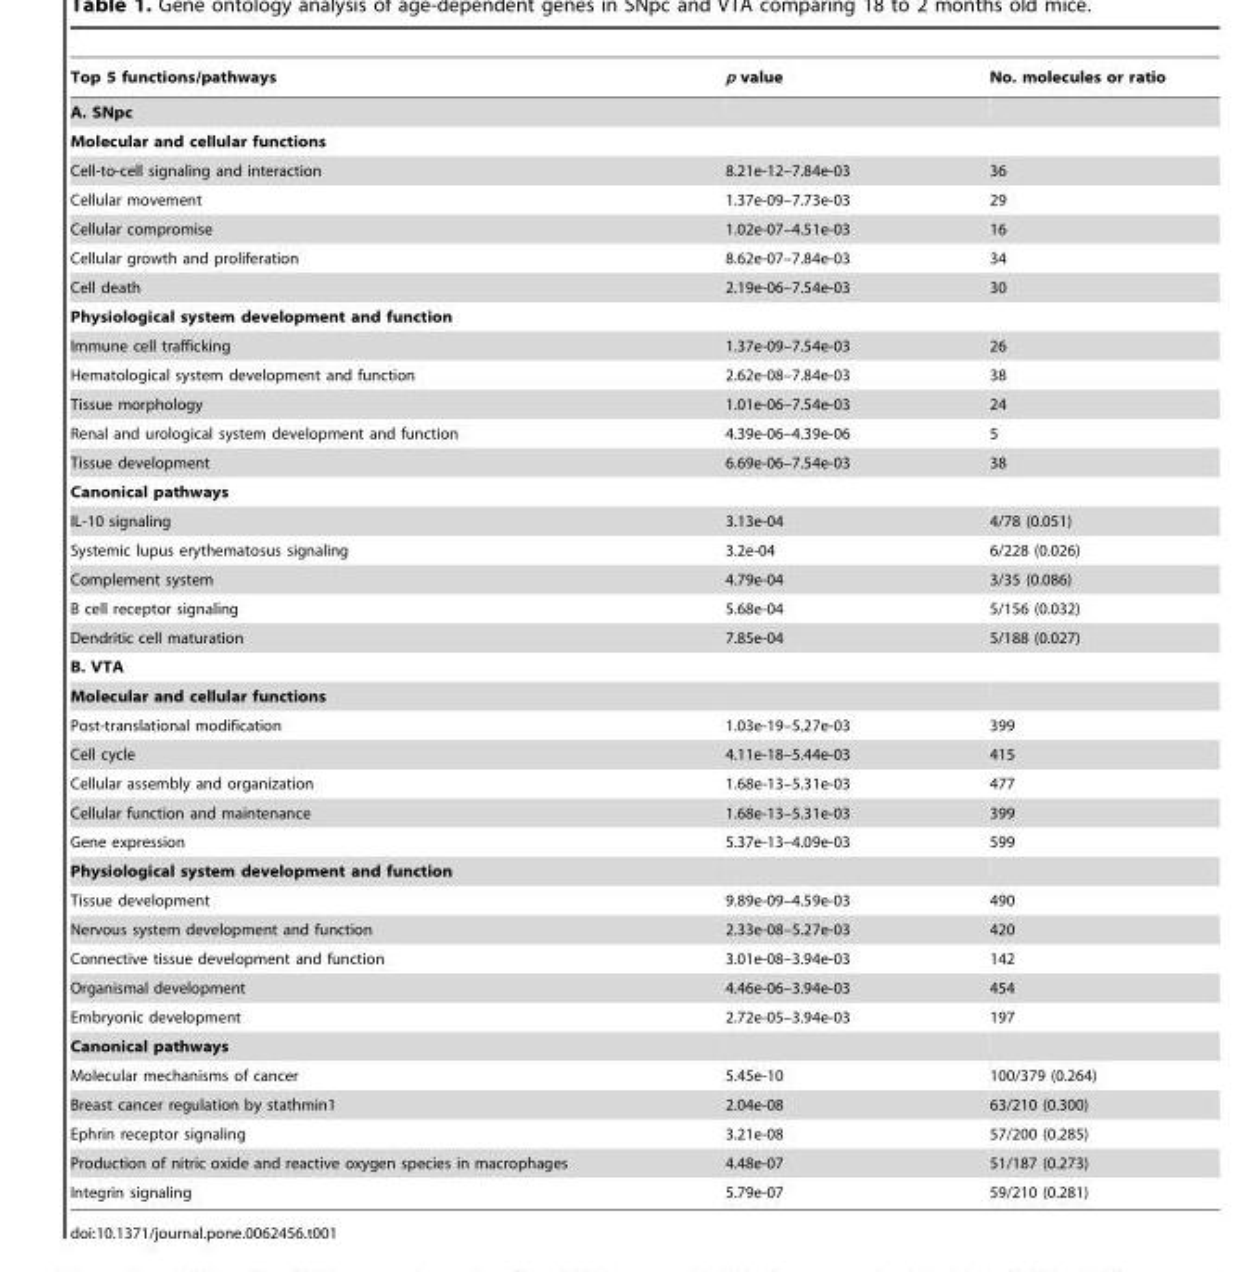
<table><thead><tr><td>Top 5 functions/pathways</td><td>p value</td><td>No. molecules or ratio</td></tr></thead><tbody><tr><td colspan="3">A. SNpc</td></tr><tr><td colspan="3">Molecular and cellular functions</td></tr><tr><td>Cell-to-cell signaling and interaction</td><td>8.21e-12–7.84e-03</td><td>36</td></tr><tr><td>Cellular movement</td><td>1.37e-09–7.73e-03</td><td>29</td></tr><tr><td>Cellular compromise</td><td>1.02e-07–4.51e-03</td><td>16</td></tr><tr><td>Cellular growth and proliferation</td><td>8.62e-07–7.84e-03</td><td>34</td></tr><tr><td>Cell death</td><td>2.19e-06–7.54e-03</td><td>30</td></tr><tr><td colspan="3">Physiological system development and function</td></tr><tr><td>Immune cell trafficking</td><td>1.37e-09–7.54e-03</td><td>26</td></tr><tr><td>Hematological system development and function</td><td>2.62e-08–7.84e-03</td><td>38</td></tr><tr><td>Tissue morphology</td><td>1.01e-06–7.54e-03</td><td>24</td></tr><tr><td>Renal and urological system development and function</td><td>4.39e-06–4.39e-06</td><td>5</td></tr><tr><td>Tissue development</td><td>6.69e-06–7.54e-03</td><td>38</td></tr><tr><td colspan="3">Canonical pathways</td></tr><tr><td>IL-10 signaling</td><td>3.13e-04</td><td>4/78 (0.051)</td></tr><tr><td>Systemic lupus erythematosus signaling</td><td>3.2e-04</td><td>6/228 (0.026)</td></tr><tr><td>Complement system</td><td>4.79e-04</td><td>3/35 (0.086)</td></tr><tr><td>B cell receptor signaling</td><td>5.68e-04</td><td>5/156 (0.032)</td></tr><tr><td>Dendritic cell maturation</td><td>7.85e-04</td><td>5/188 (0.027)</td></tr><tr><td colspan="3">B. VTA</td></tr><tr><td colspan="3">Molecular and cellular functions</td></tr><tr><td>Post-translational modification</td><td>1.03e-19–5.27e-03</td><td>399</td></tr><tr><td>Cell cycle</td><td>4.11e-18–5.44e-03</td><td>415</td></tr><tr><td>Cellular assembly and organization</td><td>1.68e-13–5.31e-03</td><td>477</td></tr><tr><td>Cellular function and maintenance</td><td>1.68e-13–5.31e-03</td><td>399</td></tr><tr><td>Gene expression</td><td>5.37e-13–4.09e-03</td><td>599</td></tr><tr><td colspan="3">Physiological system development and function</td></tr><tr><td>Tissue development</td><td>9.89e-09–4.59e-03</td><td>490</td></tr><tr><td>Nervous system development and function</td><td>2.33e-08–5.27e-03</td><td>420</td></tr><tr><td>Connective tissue development and function</td><td>3.01e-08–3.94e-03</td><td>142</td></tr><tr><td>Organismal development</td><td>4.46e-06–3.94e-03</td><td>454</td></tr><tr><td>Embryonic development</td><td>2.72e-05–3.94e-03</td><td>197</td></tr><tr><td colspan="3">Canonical pathways</td></tr><tr><td>Molecular mechanisms of cancer</td><td>5.45e-10</td><td>100/379 (0.264)</td></tr><tr><td>Breast cancer regulation by stathmin1</td><td>2.04e-08</td><td>63/210 (0.300)</td></tr><tr><td>Ephrin receptor signaling</td><td>3.21e-08</td><td>57/200 (0.285)</td></tr><tr><td>Production of nitric oxide and reactive oxygen species in macrophages</td><td>4.48e-07</td><td>51/187 (0.273)</td></tr><tr><td>Integrin signaling</td><td>5.79e-07</td><td>59/210 (0.281)</td></tr></tbody></table>